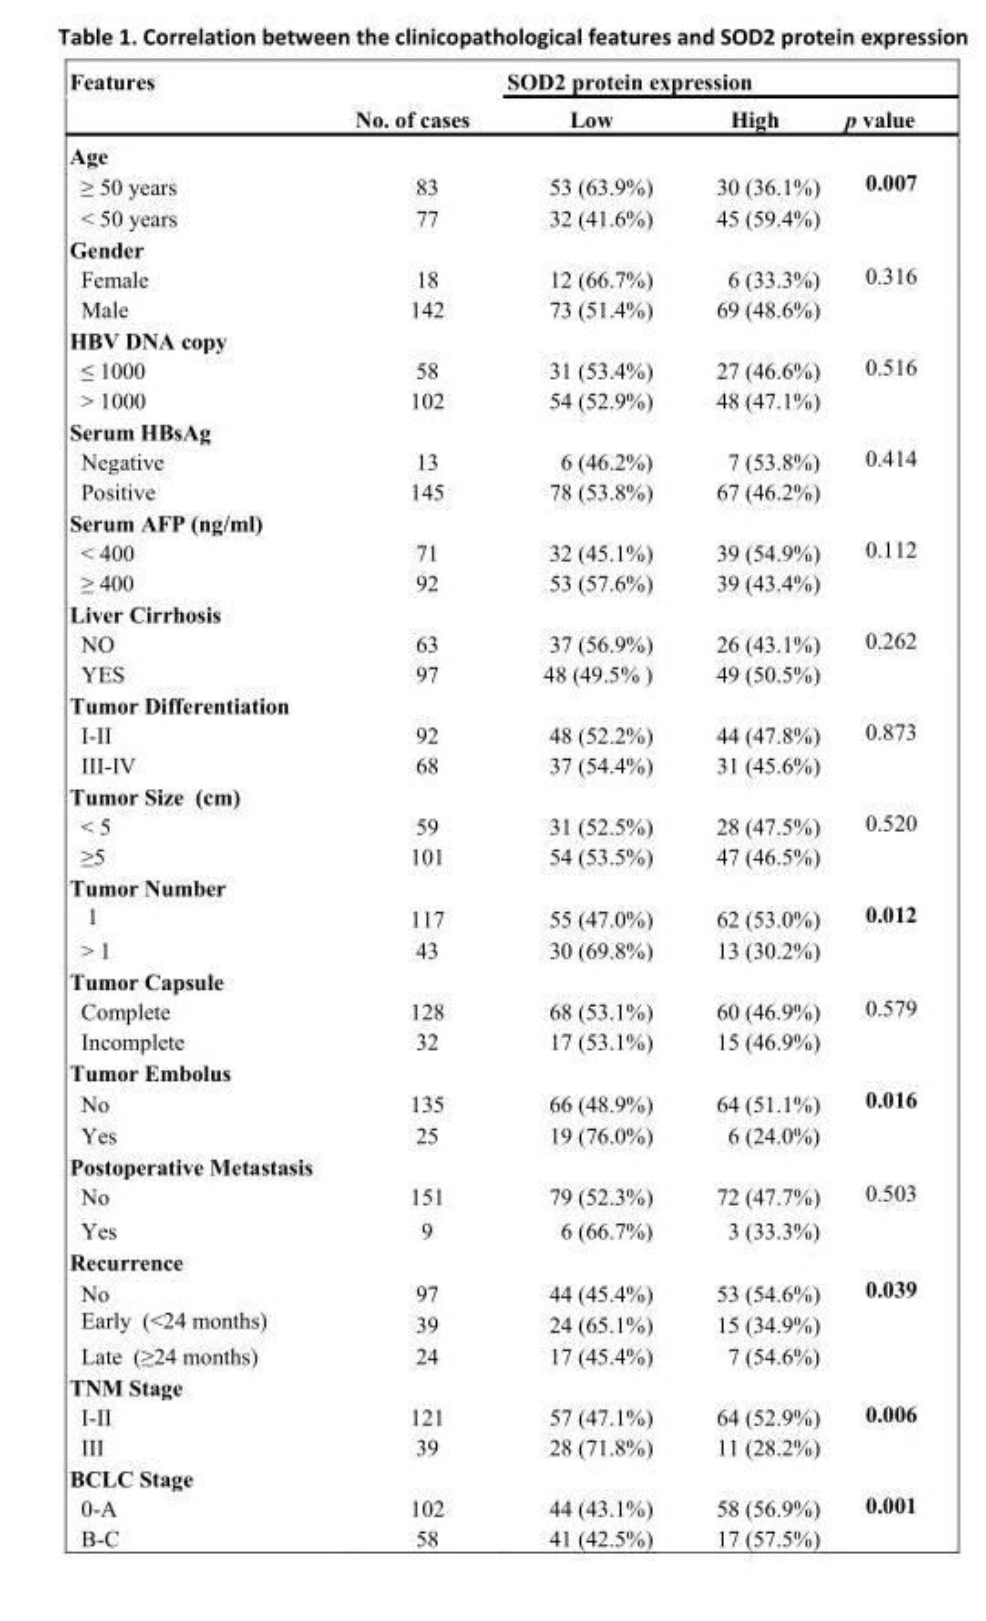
<table><thead><tr><td rowspan="2">Features</td><td rowspan="2">No. of cases</td><td colspan="3">SOD2 protein expression</td></tr><tr><td>Low</td><td>High</td><td>p value</td></tr></thead><tbody><tr><td colspan="5">Age</td></tr><tr><td>≥ 50 years</td><td>83</td><td>53 (63.9%)</td><td>30 (36.1%)</td><td>0.007</td></tr><tr><td>&lt; 50 years</td><td>77</td><td>32 (41.6%)</td><td>45 (59.4%)</td><td></td></tr><tr><td colspan="5">Gender</td></tr><tr><td>Female</td><td>18</td><td>12 (66.7%)</td><td>6 (33.3%)</td><td>0.316</td></tr><tr><td>Male</td><td>142</td><td>73 (51.4%)</td><td>69 (48.6%)</td><td></td></tr><tr><td colspan="5">HBV DNA copy</td></tr><tr><td>≤ 1000</td><td>58</td><td>31 (53.4%)</td><td>27 (46.6%)</td><td>0.516</td></tr><tr><td>&gt; 1000</td><td>102</td><td>54 (52.9%)</td><td>48 (47.1%)</td><td></td></tr><tr><td colspan="5">Serum HBsAg</td></tr><tr><td>Negative</td><td>13</td><td>6 (46.2%)</td><td>7 (53.8%)</td><td>0.414</td></tr><tr><td>Positive</td><td>145</td><td>78 (53.8%)</td><td>67 (46.2%)</td><td></td></tr><tr><td colspan="5">Serum AFP (ng/ml)</td></tr><tr><td>&lt; 400</td><td>71</td><td>32 (45.1%)</td><td>39 (54.9%)</td><td>0.112</td></tr><tr><td>≥ 400</td><td>92</td><td>53 (57.6%)</td><td>39 (43.4%)</td><td></td></tr><tr><td colspan="5">Liver Cirrhosis</td></tr><tr><td>NO</td><td>63</td><td>37 (56.9%)</td><td>26 (43.1%)</td><td>0.262</td></tr><tr><td>YES</td><td>97</td><td>48 (49.5% )</td><td>49 (50.5%)</td><td></td></tr><tr><td colspan="5">Tumor Differentiation</td></tr><tr><td>I-II</td><td>92</td><td>48 (52.2%)</td><td>44 (47.8%)</td><td>0.873</td></tr><tr><td>III-IV</td><td>68</td><td>37 (54.4%)</td><td>31 (45.6%)</td><td></td></tr><tr><td colspan="5">Tumor Size (cm)</td></tr><tr><td>&lt; 5</td><td>59</td><td>31 (52.5%)</td><td>28 (47.5%)</td><td>0.520</td></tr><tr><td>≥5</td><td>101</td><td>54 (53.5%)</td><td>47 (46.5%)</td><td></td></tr><tr><td colspan="5">Tumor Number</td></tr><tr><td>1</td><td>117</td><td>55 (47.0%)</td><td>62 (53.0%)</td><td>0.012</td></tr><tr><td>&gt; 1</td><td>43</td><td>30 (69.8%)</td><td>13 (30.2%)</td><td></td></tr><tr><td colspan="5">Tumor Capsule</td></tr><tr><td>Complete</td><td>128</td><td>68 (53.1%)</td><td>60 (46.9%)</td><td>0.579</td></tr><tr><td>Incomplete</td><td>32</td><td>17 (53.1%)</td><td>15 (46.9%)</td><td></td></tr><tr><td colspan="5">Tumor Embolus</td></tr><tr><td>No</td><td>135</td><td>66 (48.9%)</td><td>64 (51.1%)</td><td>0.016</td></tr><tr><td>Yes</td><td>25</td><td>19 (76.0%)</td><td>6 (24.0%)</td><td></td></tr><tr><td colspan="5">Postoperative Metastasis</td></tr><tr><td>No</td><td>151</td><td>79 (52.3%)</td><td>72 (47.7%)</td><td>0.503</td></tr><tr><td>Yes</td><td>9</td><td>6 (66.7%)</td><td>3 (33.3%)</td><td></td></tr><tr><td colspan="5">Recurrence</td></tr><tr><td>No</td><td>97</td><td>44 (45.4%)</td><td>53 (54.6%)</td><td>0.039</td></tr><tr><td>Early (&lt;24 months)</td><td>39</td><td>24 (65.1%)</td><td>15 (34.9%)</td><td></td></tr><tr><td>Late (≥24 months)</td><td>24</td><td>17 (45.4%)</td><td>7 (54.6%)</td><td></td></tr><tr><td colspan="5">TNM Stage</td></tr><tr><td>I-II</td><td>121</td><td>57 (47.1%)</td><td>64 (52.9%)</td><td>0.006</td></tr><tr><td>III</td><td>39</td><td>28 (71.8%)</td><td>11 (28.2%)</td><td></td></tr><tr><td colspan="5">BCLC Stage</td></tr><tr><td>0-A</td><td>102</td><td>44 (43.1%)</td><td>58 (56.9%)</td><td>0.001</td></tr><tr><td>B-C</td><td>58</td><td>41 (42.5%)</td><td>17 (57.5%)</td><td></td></tr></tbody></table>